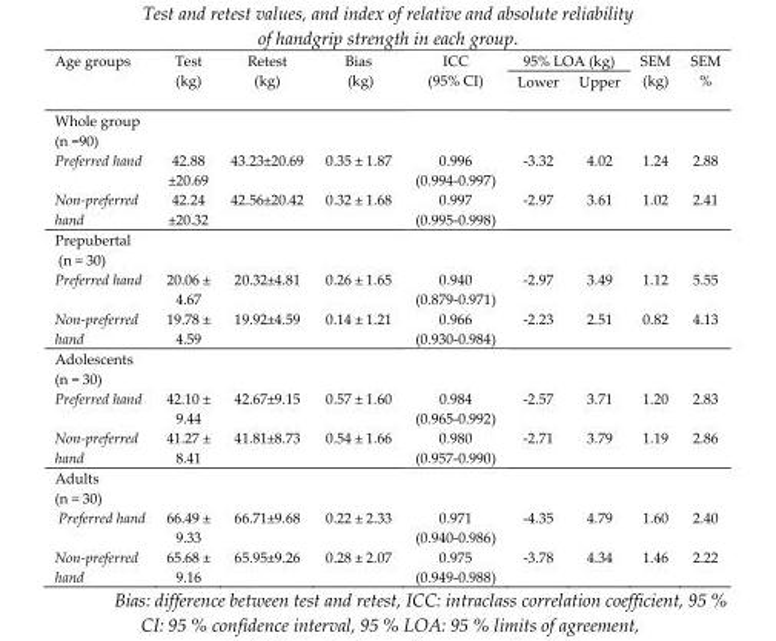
<table><thead><tr><td rowspan="2">Age groups</td><td rowspan="2">Test (kg)</td><td rowspan="2">Retest (kg)</td><td rowspan="2">Bias (kg)</td><td rowspan="2">ICC (95% CI)</td><td colspan="2">95% LOA (kg)</td><td rowspan="2">SEM (kg)</td><td rowspan="2">SEM %</td></tr><tr><td>Lower</td><td>Upper</td></tr></thead><tbody><tr><td colspan="9">Whole group (n =90)</td></tr><tr><td>Preferred hand</td><td>42.88 ±20.69</td><td>43.23±20.69</td><td>0.35 ± 1.87</td><td>0.996 (0.994-0.997)</td><td>-3.32</td><td>4.02</td><td>1.24</td><td>2.88</td></tr><tr><td>Non-preferred hand</td><td>42.24 ±20.32</td><td>42.56±20.42</td><td>0.32 ± 1.68</td><td>0.997 (0.995-0.998)</td><td>-2.97</td><td>3.61</td><td>1.02</td><td>2.41</td></tr><tr><td colspan="9">Prepubertal (n = 30)</td></tr><tr><td>Preferred hand</td><td>20.06 ± 4.67</td><td>20.32±4.81</td><td>0.26 ± 1.65</td><td>0.940 (0.879-0.971)</td><td>-2.97</td><td>3.49</td><td>1.12</td><td>5.55</td></tr><tr><td>Non-preferred hand</td><td>19.78 ± 4.59</td><td>19.92±4.59</td><td>0.14 ± 1.21</td><td>0.966 (0.930-0.984)</td><td>-2.23</td><td>2.51</td><td>0.82</td><td>4.13</td></tr><tr><td colspan="9">Adolescents (n = 30)</td></tr><tr><td>Preferred hand</td><td>42.10 ± 9.44</td><td>42.67±9.15</td><td>0.57 ± 1.60</td><td>0.984 (0.965-0.992)</td><td>-2.57</td><td>3.71</td><td>1.20</td><td>2.83</td></tr><tr><td>Non-preferred hand</td><td>41.27 ± 8.41</td><td>41.81±8.73</td><td>0.54 ± 1.66</td><td>0.980 (0.957-0.990)</td><td>-2.71</td><td>3.79</td><td>1.19</td><td>2.86</td></tr><tr><td colspan="9">Adults (n = 30)</td></tr><tr><td>Preferred hand</td><td>66.49 ± 9.33</td><td>66.71±9.68</td><td>0.22 ± 2.33</td><td>0.971 (0.940-0.986)</td><td>-4.35</td><td>4.79</td><td>1.60</td><td>2.40</td></tr><tr><td>Non-preferred hand</td><td>65.68 ± 9.16</td><td>65.95±9.26</td><td>0.28 ± 2.07</td><td>0.975 (0.949-0.988)</td><td>-3.78</td><td>4.34</td><td>1.46</td><td>2.22</td></tr></tbody></table>